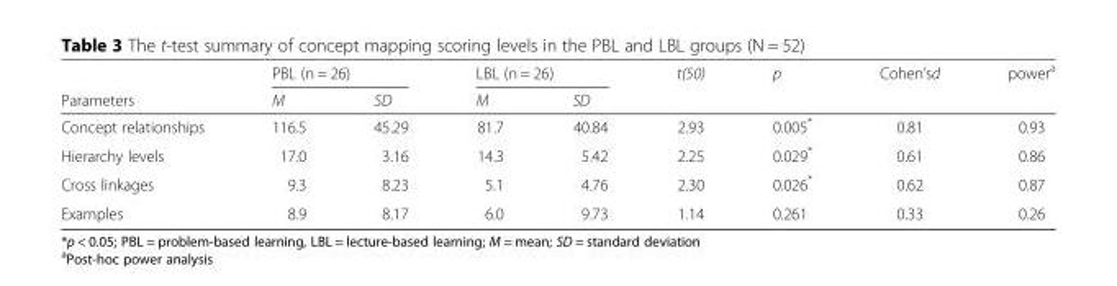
<table><thead><tr><td rowspan="2">Parameters</td><td colspan="2">PBL (n = 26)</td><td colspan="2">LBL (n = 26)</td><td rowspan="2">t(50)</td><td rowspan="2">p</td><td rowspan="2">Cohen’sd</td><td rowspan="2">power<sup>a</sup></td></tr><tr><td>M</td><td>SD</td><td>M</td><td>SD</td></tr></thead><tbody><tr><td>Concept relationships</td><td>116.5</td><td>45.29</td><td>81.7</td><td>40.84</td><td>2.93</td><td>0.005*</td><td>0.81</td><td>0.93</td></tr><tr><td>Hierarchy levels</td><td>17.0</td><td>3.16</td><td>14.3</td><td>5.42</td><td>2.25</td><td>0.029*</td><td>0.61</td><td>0.86</td></tr><tr><td>Cross linkages</td><td>9.3</td><td>8.23</td><td>5.1</td><td>4.76</td><td>2.30</td><td>0.026*</td><td>0.62</td><td>0.87</td></tr><tr><td>Examples</td><td>8.9</td><td>8.17</td><td>6.0</td><td>9.73</td><td>1.14</td><td>0.261</td><td>0.33</td><td>0.26</td></tr></tbody></table>